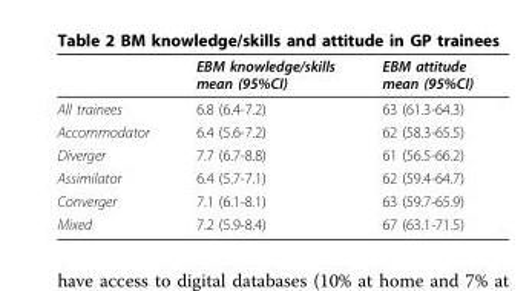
<table><thead><tr><td></td><td>EBM knowledge/skills mean (95%CI)</td><td>EBM attitude mean (95%CI)</td></tr></thead><tbody><tr><td>All trainees</td><td>6.8 (6.4-7.2)</td><td>63 (61.3-64.3)</td></tr><tr><td>Accommodator</td><td>6.4 (5.6-7.2)</td><td>62 (58.3-65.5)</td></tr><tr><td>Diverger</td><td>7.7 (6.7-8.8)</td><td>61 (56.5-66.2)</td></tr><tr><td>Assimilator</td><td>6.4 (5.7-7.1)</td><td>62 (59.4-64.7)</td></tr><tr><td>Converger</td><td>7.1 (6.1-8.1)</td><td>63 (59.7-65.9)</td></tr><tr><td>Mixed</td><td>7.2 (5.9-8.4)</td><td>67 (63.1-71.5)</td></tr></tbody></table>